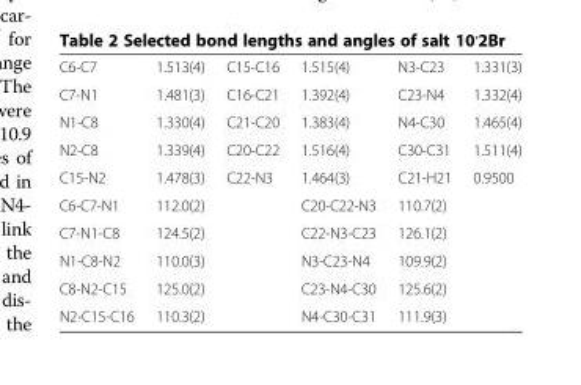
<table><thead><tr><td>C6-C7</td><td>1.513(4)</td><td>C15-C16</td><td>1.515(4)</td><td>N3-C23</td><td>1.331(3)</td></tr></thead><tbody><tr><td>C7-N1</td><td>1.481(3)</td><td>C16-C21</td><td>1.392(4)</td><td>C23-N4</td><td>1.332(4)</td></tr><tr><td>N1-C8</td><td>1.330(4)</td><td>C21-C20</td><td>1.383(4)</td><td>N4-C30</td><td>1.465(4)</td></tr><tr><td>N2-C8</td><td>1.339(4)</td><td>C20-C22</td><td>1.516(4)</td><td>C30-C31</td><td>1.511(4)</td></tr><tr><td>C15-N2</td><td>1.478(3)</td><td>C22-N3</td><td>1.464(3)</td><td>C21-H21</td><td>0.9500</td></tr><tr><td>C6-C7-N1</td><td>112.0(2)</td><td></td><td>C20-C22-N3</td><td>110.7(2)</td><td></td></tr><tr><td>C7-N1-C8</td><td>124.5(2)</td><td></td><td>C22-N3-C23</td><td>126.1(2)</td><td></td></tr><tr><td>N1-C8-N2</td><td>110.0(3)</td><td></td><td>N3-C23-N4</td><td>109.9(2)</td><td></td></tr><tr><td>C8-N2-C15</td><td>125.0(2)</td><td></td><td>C23-N4-C30</td><td>125.6(2)</td><td></td></tr><tr><td>N2-C15-C16</td><td>110.3(2)</td><td></td><td>N4-C30-C31</td><td>111.9(3)</td><td></td></tr></tbody></table>